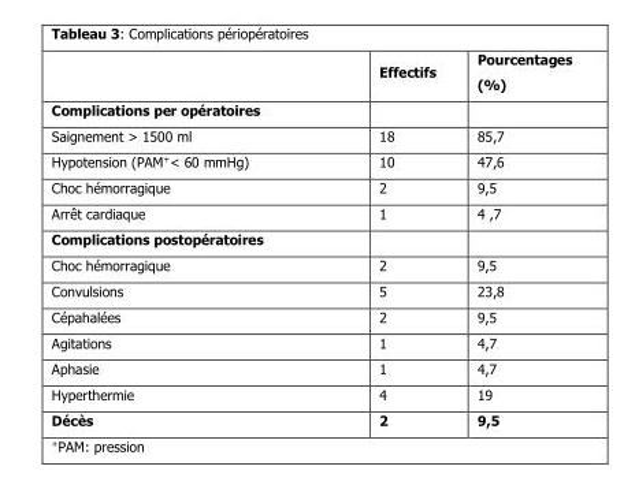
<table><thead><tr><td></td><td>Effectifs</td><td>Pourcentages (%)</td></tr></thead><tbody><tr><td colspan="3">Complications per opératoires</td></tr><tr><td>Saignement &gt; 1500 ml</td><td>18</td><td>85,7</td></tr><tr><td>Hypotension (PAM<sup>+</sup>&lt; 60 mmHg)</td><td>10</td><td>47,6</td></tr><tr><td>Choc hémorragique</td><td>2</td><td>9,5</td></tr><tr><td>Arrêt cardiaque</td><td>1</td><td>4 ,7</td></tr><tr><td colspan="3">Complications postopératoires</td></tr><tr><td>Choc hémorragique</td><td>2</td><td>9,5</td></tr><tr><td>Convulsions</td><td>5</td><td>23,8</td></tr><tr><td>Cépahalées</td><td>2</td><td>9,5</td></tr><tr><td>Agitations</td><td>1</td><td>4,7</td></tr><tr><td>Aphasie</td><td>1</td><td>4,7</td></tr><tr><td>Hyperthermie</td><td>4</td><td>19</td></tr><tr><td>Décès</td><td>2</td><td>9,5</td></tr></tbody></table>